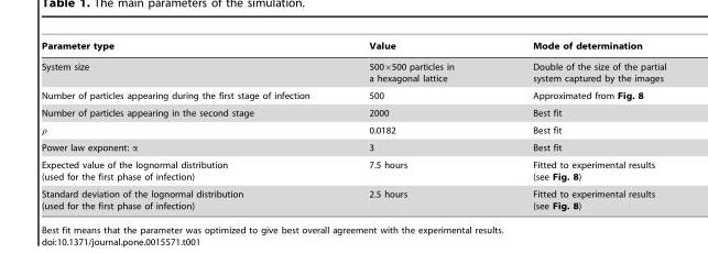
<table><thead><tr><td>Parameter type</td><td>Value</td><td>Mode of determination</td></tr></thead><tbody><tr><td>System size</td><td>500×500 particles in a hexagonal lattice</td><td>Double of the size of the partial system captured by the images</td></tr><tr><td>Number of particles appearing during the first stage of infection</td><td>500</td><td>Approximated from Fig. 8</td></tr><tr><td>Number of particles appearing in the second stage</td><td>2000</td><td>Best fit</td></tr><tr><td>ρ</td><td>0.0182</td><td>Best fit</td></tr><tr><td>Power law exponent: α</td><td>3</td><td>Best fit</td></tr><tr><td>Expected value of the lognormal distribution (used for the first phase of infection)</td><td>7.5 hours</td><td>Fitted to experimental results (see Fig. 8)</td></tr><tr><td>Standard deviation of the lognormal distribution (used for the first phase of infection)</td><td>2.5 hours</td><td>Fitted to experimental results (see Fig. 8)</td></tr></tbody></table>